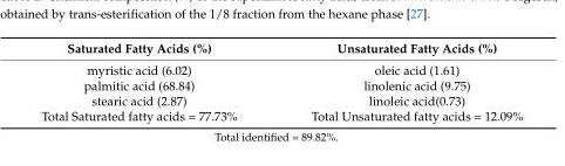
<table><thead><tr><td>Saturated Fatty Acids (%)</td><td>Unsaturated Fatty Acids (%)</td></tr></thead><tbody><tr><td>myristic acid (6.02)</td><td>oleic acid (1.61)</td></tr><tr><td>palmitic acid (68.84)</td><td>linolenic acid (9.75)</td></tr><tr><td>stearic acid (2.87)</td><td>linoleic acid(0.73)</td></tr><tr><td>Total Saturated fatty acids = 77.73%</td><td>Total Unsaturated fatty acids = 12.09%</td></tr></tbody></table>